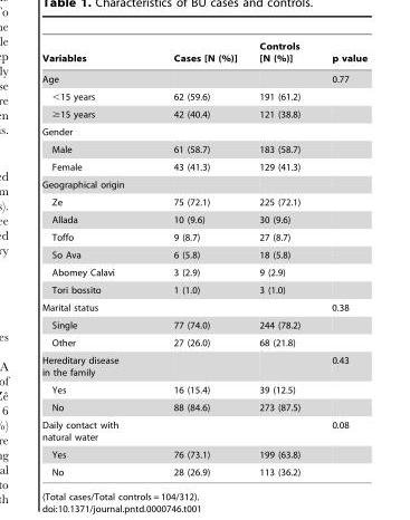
<table><thead><tr><td>Variables</td><td>Cases [N (%)]</td><td>Controls [N (%)]</td><td>p value</td></tr></thead><tbody><tr><td>Age</td><td></td><td></td><td>0.77</td></tr><tr><td>&lt;15 years</td><td>62 (59.6)</td><td>191 (61.2)</td><td></td></tr><tr><td>≥15 years</td><td>42 (40.4)</td><td>121 (38.8)</td><td></td></tr><tr><td colspan="4">Gender</td></tr><tr><td>Male</td><td>61 (58.7)</td><td>183 (58.7)</td><td></td></tr><tr><td>Female</td><td>43 (41.3)</td><td>129 (41.3)</td><td></td></tr><tr><td colspan="4">Geographical origin</td></tr><tr><td>Ze</td><td>75 (72.1)</td><td>225 (72.1)</td><td></td></tr><tr><td>Allada</td><td>10 (9.6)</td><td>30 (9.6)</td><td></td></tr><tr><td>Toffo</td><td>9 (8.7)</td><td>27 (8.7)</td><td></td></tr><tr><td>So Ava</td><td>6 (5.8)</td><td>18 (5.8)</td><td></td></tr><tr><td>Abomey Calavi</td><td>3 (2.9)</td><td>9 (2.9)</td><td></td></tr><tr><td>Tori bossito</td><td>1 (1.0)</td><td>3 (1.0)</td><td></td></tr><tr><td>Marital status</td><td></td><td></td><td>0.38</td></tr><tr><td>Single</td><td>77 (74.0)</td><td>244 (78.2)</td><td></td></tr><tr><td>Other</td><td>27 (26.0)</td><td>68 (21.8)</td><td></td></tr><tr><td>Hereditary disease in the family</td><td></td><td></td><td>0.43</td></tr><tr><td>Yes</td><td>16 (15.4)</td><td>39 (12.5)</td><td></td></tr><tr><td>No</td><td>88 (84.6)</td><td>273 (87.5)</td><td></td></tr><tr><td>Daily contact with natural water</td><td></td><td></td><td>0.08</td></tr><tr><td>Yes</td><td>76 (73.1)</td><td>199 (63.8)</td><td></td></tr><tr><td>No</td><td>28 (26.9)</td><td>113 (36.2)</td><td></td></tr></tbody></table>